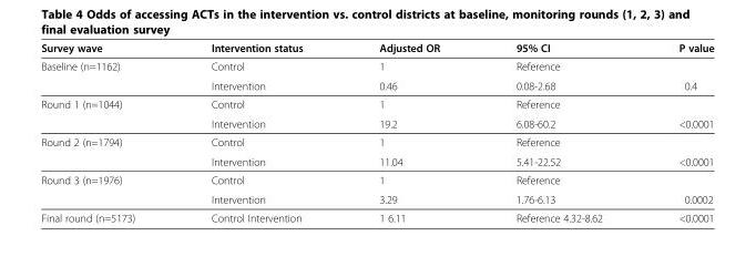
<table><thead><tr><td>Survey wave</td><td>Intervention status</td><td>Adjusted OR</td><td>95% CI</td><td>P value</td></tr></thead><tbody><tr><td rowspan="2">Baseline (n=1162)</td><td>Control</td><td>1</td><td>Reference</td><td></td></tr><tr><td>Intervention</td><td>0.46</td><td>0.08-2.68</td><td>0.4</td></tr><tr><td rowspan="2">Round 1 (n=1044)</td><td>Control</td><td>1</td><td>Reference</td><td></td></tr><tr><td>Intervention</td><td>19.2</td><td>6.08-60.2</td><td>&lt;0.0001</td></tr><tr><td rowspan="2">Round 2 (n=1794)</td><td>Control</td><td>1</td><td>Reference</td><td></td></tr><tr><td>Intervention</td><td>11.04</td><td>5.41-22.52</td><td>&lt;0.0001</td></tr><tr><td rowspan="2">Round 3 (n=1976)</td><td>Control</td><td>1</td><td>Reference</td><td></td></tr><tr><td>Intervention</td><td>3.29</td><td>1.76-6.13</td><td>0.0002</td></tr><tr><td>Final round (n=5173)</td><td>Control Intervention</td><td>1 6.11</td><td>Reference 4.32-8.62</td><td>&lt;0.0001</td></tr></tbody></table>